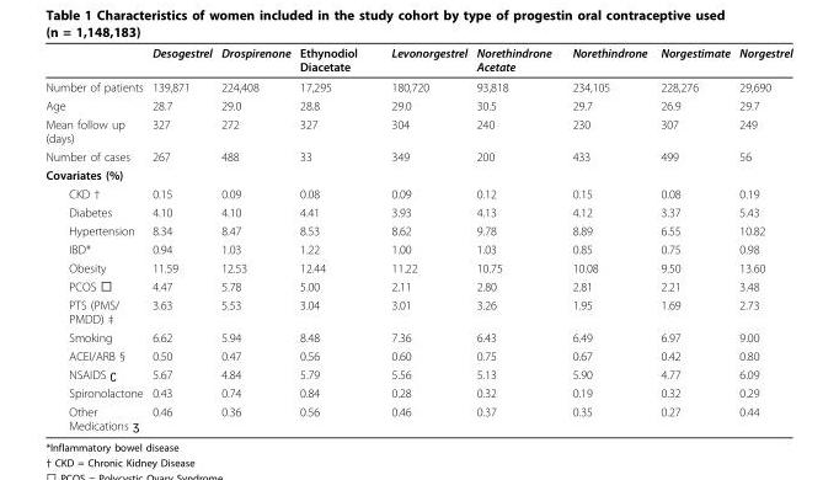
<table><thead><tr><td></td><td>Desogestrel</td><td>Drospirenone</td><td>Ethynodiol Diacetate</td><td>Levonorgestrel</td><td>Norethindrone Acetate</td><td>Norethindrone</td><td>Norgestimate</td><td>Norgestrel</td></tr></thead><tbody><tr><td>Number of patients</td><td>139,871</td><td>224,408</td><td>17,295</td><td>180,720</td><td>93,818</td><td>234,105</td><td>228,276</td><td>29,690</td></tr><tr><td>Age</td><td>28.7</td><td>29.0</td><td>28.8</td><td>29.0</td><td>30.5</td><td>29.7</td><td>26.9</td><td>29.7</td></tr><tr><td>Mean follow up (days)</td><td>327</td><td>272</td><td>327</td><td>304</td><td>240</td><td>230</td><td>307</td><td>249</td></tr><tr><td>Number of cases</td><td>267</td><td>488</td><td>33</td><td>349</td><td>200</td><td>433</td><td>499</td><td>56</td></tr><tr><td colspan="9">Covariates (%)</td></tr><tr><td>CKD †</td><td>0.15</td><td>0.09</td><td>0.08</td><td>0.09</td><td>0.12</td><td>0.15</td><td>0.08</td><td>0.19</td></tr><tr><td>Diabetes</td><td>4.10</td><td>4.10</td><td>4.41</td><td>3.93</td><td>4.13</td><td>4.12</td><td>3.37</td><td>5.43</td></tr><tr><td>Hypertension</td><td>8.34</td><td>8.47</td><td>8.53</td><td>8.62</td><td>9.78</td><td>8.89</td><td>6.55</td><td>10.82</td></tr><tr><td>IBD*</td><td>0.94</td><td>1.03</td><td>1.22</td><td>1.00</td><td>1.03</td><td>0.85</td><td>0.75</td><td>0.98</td></tr><tr><td>Obesity</td><td>11.59</td><td>12.53</td><td>12.44</td><td>11.22</td><td>10.75</td><td>10.08</td><td>9.50</td><td>13.60</td></tr><tr><td>PCOS ᶋ</td><td>4.47</td><td>5.78</td><td>5.00</td><td>2.11</td><td>2.80</td><td>2.81</td><td>2.21</td><td>3.48</td></tr><tr><td>PTS (PMS/ PMDD) ‡</td><td>3.63</td><td>5.53</td><td>3.04</td><td>3.01</td><td>3.26</td><td>1.95</td><td>1.69</td><td>2.73</td></tr><tr><td>Smoking</td><td>6.62</td><td>5.94</td><td>8.48</td><td>7.36</td><td>6.43</td><td>6.49</td><td>6.97</td><td>9.00</td></tr><tr><td>ACEI/ARB §</td><td>0.50</td><td>0.47</td><td>0.56</td><td>0.60</td><td>0.75</td><td>0.67</td><td>0.42</td><td>0.80</td></tr><tr><td>NSAIDS ʗ</td><td>5.67</td><td>4.84</td><td>5.79</td><td>5.56</td><td>5.13</td><td>5.90</td><td>4.77</td><td>6.09</td></tr><tr><td>Spironolactone</td><td>0.43</td><td>0.74</td><td>0.84</td><td>0.28</td><td>0.32</td><td>0.19</td><td>0.32</td><td>0.29</td></tr><tr><td>Other Medications ʒ</td><td>0.46</td><td>0.36</td><td>0.56</td><td>0.46</td><td>0.37</td><td>0.35</td><td>0.27</td><td>0.44</td></tr></tbody></table>